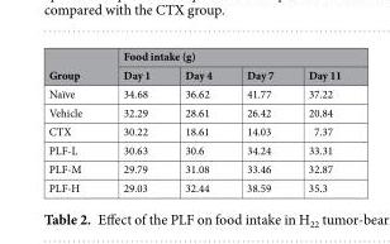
<table><thead><tr><td rowspan="2">Group</td><td colspan="4">Food intake (g)</td></tr><tr><td>Day 1</td><td>Day 4</td><td>Day 7</td><td>Day 11</td></tr></thead><tbody><tr><td>Naïve</td><td>34.68</td><td>36.62</td><td>41.77</td><td>37.22</td></tr><tr><td>Vehicle</td><td>32.29</td><td>28.61</td><td>26.42</td><td>20.84</td></tr><tr><td>CTX</td><td>30.22</td><td>18.61</td><td>14.03</td><td>7.37</td></tr><tr><td>PLF-L</td><td>30.63</td><td>30.6</td><td>34.24</td><td>33.31</td></tr><tr><td>PLF-M</td><td>29.79</td><td>31.08</td><td>33.46</td><td>32.87</td></tr><tr><td>PLF-H</td><td>29.03</td><td>32.44</td><td>38.59</td><td>35.3</td></tr></tbody></table>